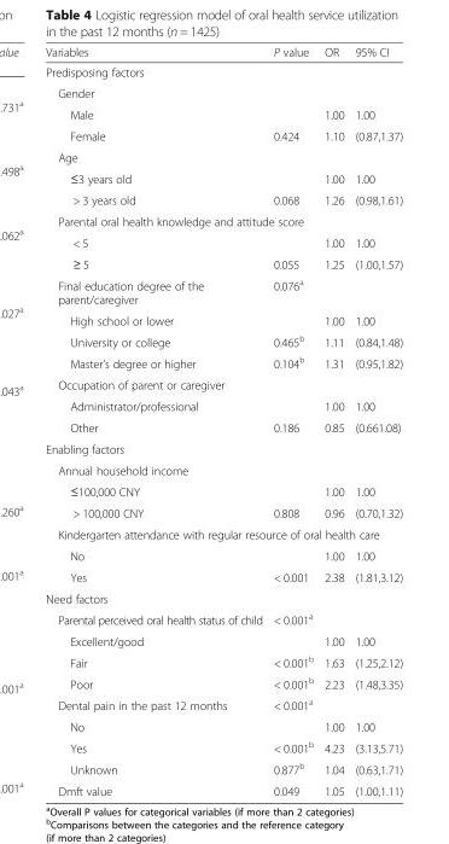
<table><thead><tr><td>Variables</td><td>P value</td><td>OR</td><td>95% CI</td></tr></thead><tbody><tr><td colspan="4">Predisposing factors</td></tr><tr><td colspan="4">Gender</td></tr><tr><td>Male</td><td></td><td>1.00</td><td>1.00</td></tr><tr><td>Female</td><td>0.424</td><td>1.10</td><td>(0.87,1.37)</td></tr><tr><td colspan="4">Age</td></tr><tr><td>≤3 years old</td><td></td><td>1.00</td><td>1.00</td></tr><tr><td>&gt; 3 years old</td><td>0.068</td><td>1.26</td><td>(0.98,1.61)</td></tr><tr><td colspan="4">Parental oral health knowledge and attitude score</td></tr><tr><td>&lt; 5</td><td></td><td>1.00</td><td>1.00</td></tr><tr><td>≥ 5</td><td>0.055</td><td>1.25</td><td>(1.00,1.57)</td></tr><tr><td>Final education degree of the parent/caregiver</td><td>0.076<sup>a</sup></td><td></td><td></td></tr><tr><td>High school or lower</td><td></td><td>1.00</td><td>1.00</td></tr><tr><td>University or college</td><td>0.465<sup>b</sup></td><td>1.11</td><td>(0.84,1.48)</td></tr><tr><td>Master’s degree or higher</td><td>0.104<sup>b</sup></td><td>1.31</td><td>(0.95,1.82)</td></tr><tr><td colspan="4">Occupation of parent or caregiver</td></tr><tr><td>Administrator/professional</td><td></td><td>1.00</td><td>1.00</td></tr><tr><td>Other</td><td>0.186</td><td>0.85</td><td>(0.661.08)</td></tr><tr><td colspan="4">Enabling factors</td></tr><tr><td colspan="4">Annual household income</td></tr><tr><td>≤100,000 CNY</td><td></td><td>1.00</td><td>1.00</td></tr><tr><td>&gt; 100,000 CNY</td><td>0.808</td><td>0.96</td><td>(0.70,1.32)</td></tr><tr><td colspan="4">Kindergarten attendance with regular resource of oral health care</td></tr><tr><td>No</td><td></td><td>1.00</td><td>1.00</td></tr><tr><td>Yes</td><td>&lt; 0.001</td><td>2.38</td><td>(1.81,3.12)</td></tr><tr><td colspan="4">Need factors</td></tr><tr><td>Parental perceived oral health status of child</td><td>&lt; 0.001<sup>a</sup></td><td></td><td></td></tr><tr><td>Excellent/good</td><td></td><td>1.00</td><td>1.00</td></tr><tr><td>Fair</td><td>&lt; 0.001<sup>b</sup></td><td>1.63</td><td>(1.25,2.12)</td></tr><tr><td>Poor</td><td>&lt; 0.001<sup>b</sup></td><td>2.23</td><td>(1.48,3.35)</td></tr><tr><td>Dental pain in the past 12 months</td><td>&lt; 0.001<sup>a</sup></td><td></td><td></td></tr><tr><td>No</td><td></td><td>1.00</td><td>1.00</td></tr><tr><td>Yes</td><td>&lt; 0.001<sup>b</sup></td><td>4.23</td><td>(3.13,5.71)</td></tr><tr><td>Unknown</td><td>0.877<sup>b</sup></td><td>1.04</td><td>(0.63,1.71)</td></tr><tr><td>Dmft value</td><td>0.049</td><td>1.05</td><td>(1.00,1.11)</td></tr></tbody></table>